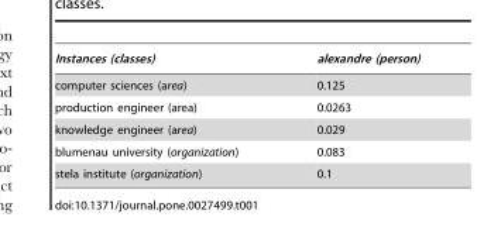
<table><thead><tr><td>Instances (classes)</td><td>alexandre (person)</td></tr></thead><tbody><tr><td>computer sciences (area)</td><td>0.125</td></tr><tr><td>production engineer (area)</td><td>0.0263</td></tr><tr><td>knowledge engineer (area)</td><td>0.029</td></tr><tr><td>blumenau university (organization)</td><td>0.083</td></tr><tr><td>stela institute (organization)</td><td>0.1</td></tr></tbody></table>